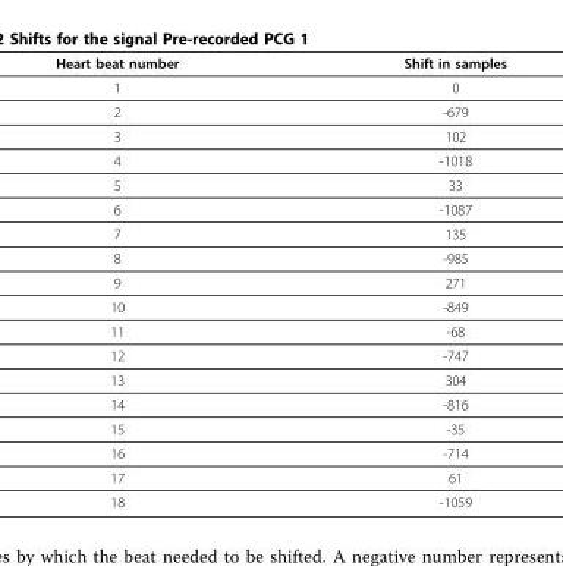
<table><thead><tr><td>Heart beat number</td><td>Shift in samples</td></tr></thead><tbody><tr><td>1</td><td>0</td></tr><tr><td>2</td><td>-679</td></tr><tr><td>3</td><td>102</td></tr><tr><td>4</td><td>-1018</td></tr><tr><td>5</td><td>33</td></tr><tr><td>6</td><td>-1087</td></tr><tr><td>7</td><td>135</td></tr><tr><td>8</td><td>-985</td></tr><tr><td>9</td><td>271</td></tr><tr><td>10</td><td>-849</td></tr><tr><td>11</td><td>-68</td></tr><tr><td>12</td><td>-747</td></tr><tr><td>13</td><td>304</td></tr><tr><td>14</td><td>-816</td></tr><tr><td>15</td><td>-35</td></tr><tr><td>16</td><td>-714</td></tr><tr><td>17</td><td>61</td></tr><tr><td>18</td><td>-1059</td></tr></tbody></table>